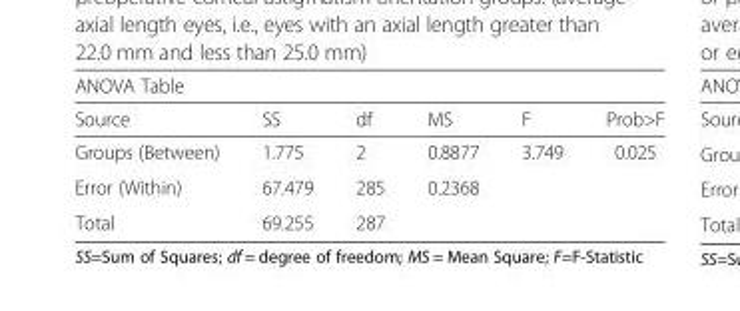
<table><thead><tr><td colspan="6">ANOVA Table</td></tr><tr><td>Source</td><td>SS</td><td>df</td><td>MS</td><td>F</td><td>Prob&gt;F</td></tr></thead><tbody><tr><td>Groups (Between)</td><td>1.775</td><td>2</td><td>0.8877</td><td>3.749</td><td>0.025</td></tr><tr><td>Error (Within)</td><td>67.479</td><td>285</td><td>0.2368</td><td></td><td></td></tr><tr><td>Total</td><td>69.255</td><td>287</td><td></td><td></td><td></td></tr></tbody></table>